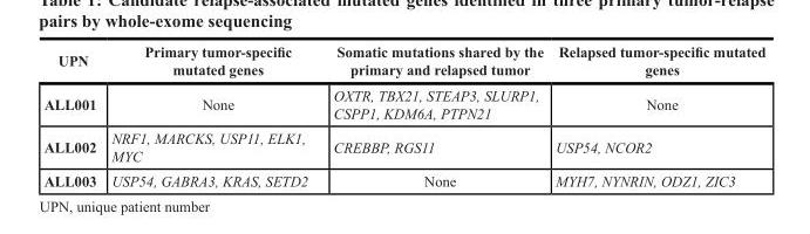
<table><thead><tr><td>UPN</td><td>Primary tumor-specific mutated genes</td><td>Somatic mutations shared by the primary and relapsed tumor</td><td>Relapsed tumor-specific mutated genes</td></tr></thead><tbody><tr><td>ALL001</td><td>None</td><td>OXTR, TBX21, STEAP3, SLURP1, CSPP1, KDM6A, PTPN21</td><td>None</td></tr><tr><td>ALL002</td><td>NRF1, MARCKS, USP11, ELK1, MYC</td><td>CREBBP, RGS11</td><td>USP54, NCOR2</td></tr><tr><td>ALL003</td><td>USP54, GABRA3, KRAS, SETD2</td><td>None</td><td>MYH7, NYNRIN, ODZ1, ZIC3</td></tr></tbody></table>